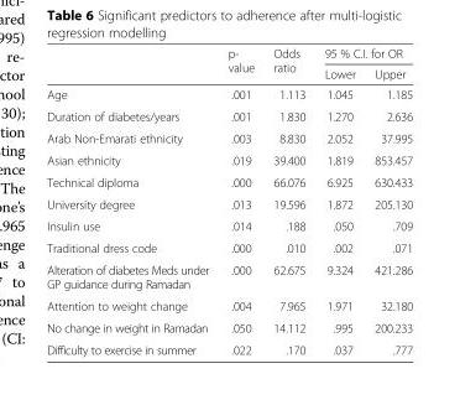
<table><thead><tr><td rowspan="2"></td><td rowspan="2">p- value</td><td rowspan="2">Odds ratio</td><td colspan="2">95 % C.I. for OR</td></tr><tr><td>Lower</td><td>Upper</td></tr></thead><tbody><tr><td>Age</td><td>.001</td><td>1.113</td><td>1.045</td><td>1.185</td></tr><tr><td>Duration of diabetes/years</td><td>.001</td><td>1.830</td><td>1.270</td><td>2.636</td></tr><tr><td>Arab Non-Emarati ethnicity</td><td>.003</td><td>8.830</td><td>2.052</td><td>37.995</td></tr><tr><td>Asian ethnicity</td><td>.019</td><td>39.400</td><td>1.819</td><td>853.457</td></tr><tr><td>Technical diploma</td><td>.000</td><td>66.076</td><td>6.925</td><td>630.433</td></tr><tr><td>University degree</td><td>.013</td><td>19.596</td><td>1.872</td><td>205.130</td></tr><tr><td>Insulin use</td><td>.014</td><td>.188</td><td>.050</td><td>.709</td></tr><tr><td>Traditional dress code</td><td>.000</td><td>.010</td><td>.002</td><td>.071</td></tr><tr><td>Alteration of diabetes Meds under GP guidance during Ramadan</td><td>.000</td><td>62.675</td><td>9.324</td><td>421.286</td></tr><tr><td>Attention to weight change</td><td>.004</td><td>7.965</td><td>1.971</td><td>32.180</td></tr><tr><td>No change in weight in Ramadan</td><td>.050</td><td>14.112</td><td>.995</td><td>200.233</td></tr><tr><td>Difficulty to exercise in summer</td><td>.022</td><td>.170</td><td>.037</td><td>.777</td></tr></tbody></table>